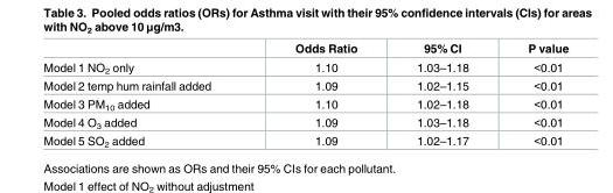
<table><thead><tr><td></td><td>Odds Ratio</td><td>95% CI</td><td>P value</td></tr></thead><tbody><tr><td>Model 1 NO<sub>2</sub> only</td><td>1.10</td><td>1.03–1.18</td><td>&lt;0.01</td></tr><tr><td>Model 2 temp hum rainfall added</td><td>1.09</td><td>1.02–1.15</td><td>&lt;0.01</td></tr><tr><td>Model 3 PM<sub>10</sub> added</td><td>1.10</td><td>1.02–1.18</td><td>&lt;0.01</td></tr><tr><td>Model 4 O<sub>3</sub> added</td><td>1.09</td><td>1.03–1.18</td><td>&lt;0.01</td></tr><tr><td>Model 5 SO<sub>2</sub> added</td><td>1.09</td><td>1.02–1.17</td><td>&lt;0.01</td></tr></tbody></table>